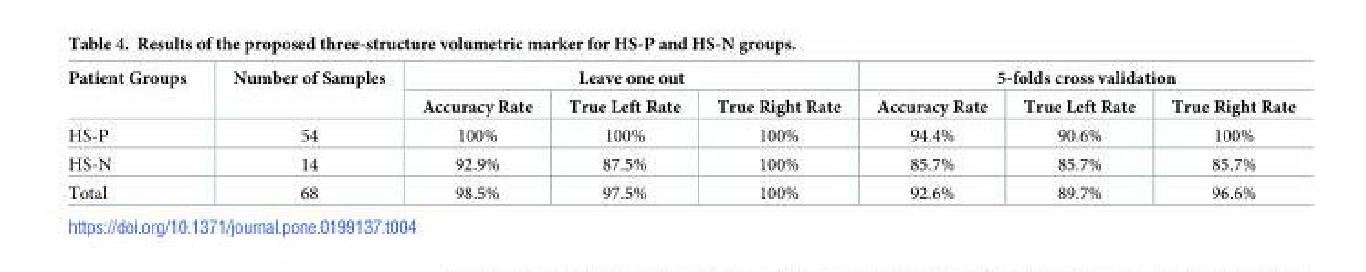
<table><thead><tr><td rowspan="2">Patient Groups</td><td rowspan="2">Number of Samples</td><td colspan="3">Leave one out</td><td colspan="3">5-folds cross validation</td></tr><tr><td>Accuracy Rate</td><td>True Left Rate</td><td>True Right Rate</td><td>Accuracy Rate</td><td>True Left Rate</td><td>True Right Rate</td></tr></thead><tbody><tr><td>HS-P</td><td>54</td><td>100%</td><td>100%</td><td>100%</td><td>94.4%</td><td>90.6%</td><td>100%</td></tr><tr><td>HS-N</td><td>14</td><td>92.9%</td><td>87.5%</td><td>100%</td><td>85.7%</td><td>85.7%</td><td>85.7%</td></tr><tr><td>Total</td><td>68</td><td>98.5%</td><td>97.5%</td><td>100%</td><td>92.6%</td><td>89.7%</td><td>96.6%</td></tr></tbody></table>